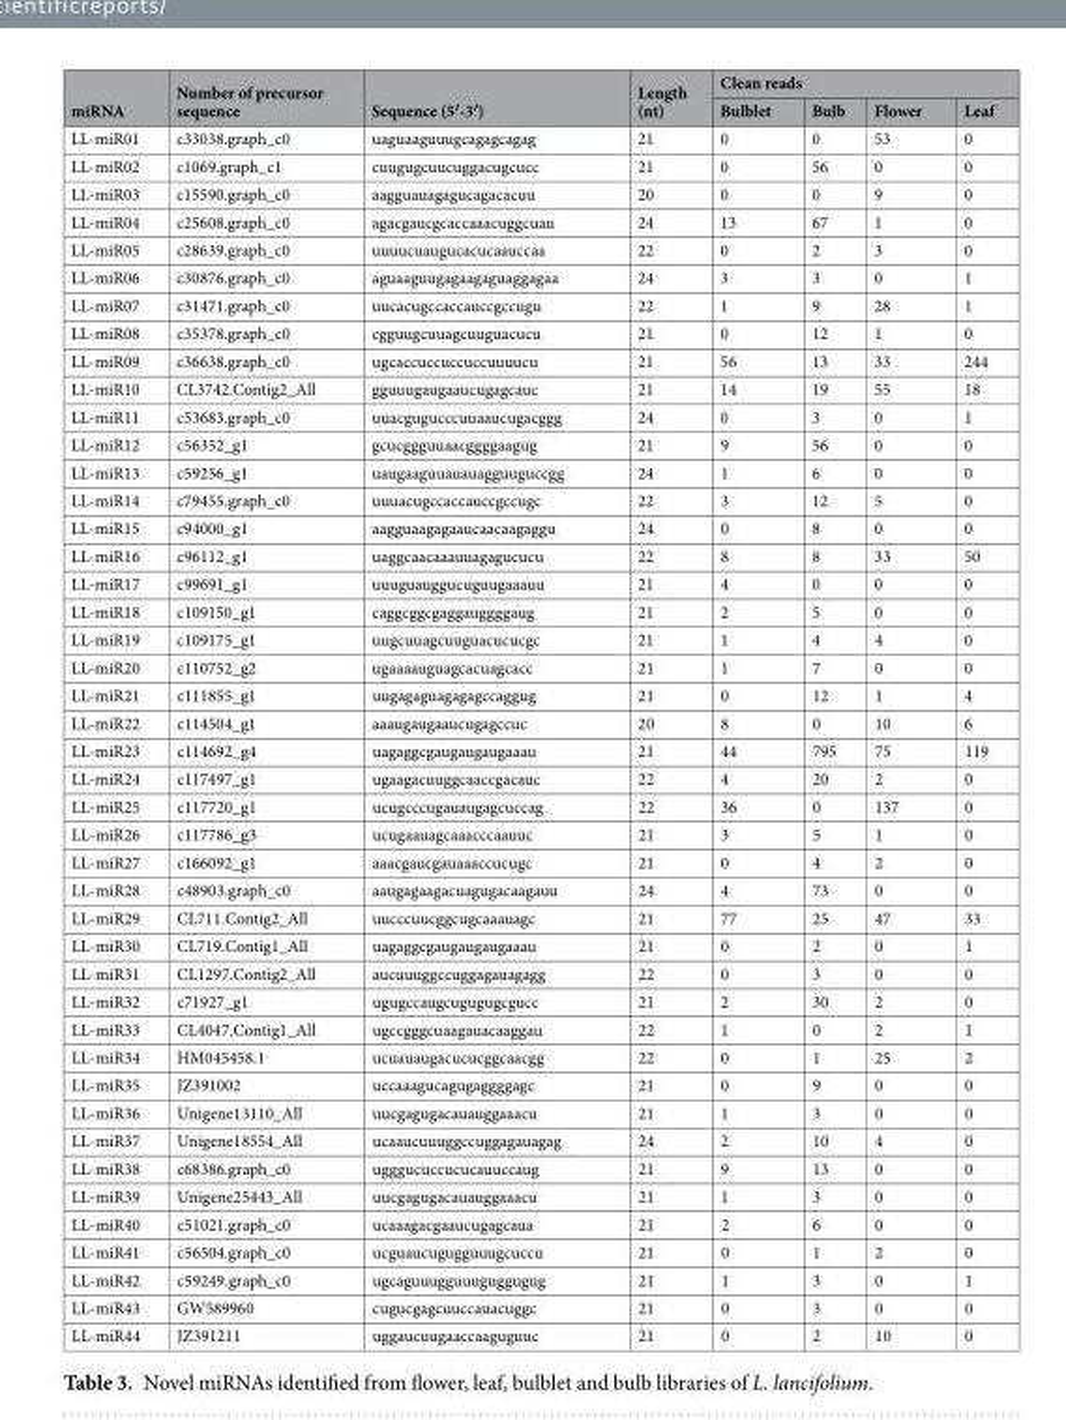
<table><thead><tr><td rowspan="2">miRNA</td><td rowspan="2">Number of precursor sequence</td><td rowspan="2">Sequence (5′-3′)</td><td rowspan="2">Length (nt)</td><td colspan="4">Clean reads</td></tr><tr><td>Bulblet</td><td>Bulb</td><td>Flower</td><td>Leaf</td></tr></thead><tbody><tr><td>LL-miR01</td><td>c33038.graph_c0</td><td>uaguaaguuugcagagcagag</td><td>21</td><td>0</td><td>0</td><td>53</td><td>0</td></tr><tr><td>LL-miR02</td><td>c1069.graph_c1</td><td>cuugugcuucuggacugcucc</td><td>21</td><td>0</td><td>56</td><td>0</td><td>0</td></tr><tr><td>LL-miR03</td><td>c15590.graph_c0</td><td>aagguauagagucagacacuu</td><td>20</td><td>0</td><td>0</td><td>9</td><td>0</td></tr><tr><td>LL-miR04</td><td>c25608.graph_c0</td><td>agacgaucgcaccaaacuggcuau</td><td>24</td><td>13</td><td>67</td><td>1</td><td>0</td></tr><tr><td>LL-miR05</td><td>c28639.graph_c0</td><td>uuuucuaugucacucaauccaa</td><td>22</td><td>0</td><td>2</td><td>3</td><td>0</td></tr><tr><td>LL-miR06</td><td>c30876.graph_c0</td><td>aguaaguugagaagaguaggagaa</td><td>24</td><td>3</td><td>3</td><td>0</td><td>1</td></tr><tr><td>LL-miR07</td><td>c31471.graph_c0</td><td>uucacugccaccauccgccugu</td><td>22</td><td>1</td><td>9</td><td>28</td><td>1</td></tr><tr><td>LL-miR08</td><td>c35378.graph_c0</td><td>cgguugcuuagcuuguacucu</td><td>21</td><td>0</td><td>12</td><td>1</td><td>0</td></tr><tr><td>LL-miR09</td><td>c36638.graph_c0</td><td>ugcaccuccuccuccuuuucu</td><td>21</td><td>56</td><td>13</td><td>33</td><td>244</td></tr><tr><td>LL-miR10</td><td>CL3742.Contig2_All</td><td>gguuugaugaaucugagcauc</td><td>21</td><td>14</td><td>19</td><td>55</td><td>18</td></tr><tr><td>LL-miR11</td><td>c53683.graph_c0</td><td>uuacgugucccuuaaucugacggg</td><td>24</td><td>0</td><td>3</td><td>0</td><td>1</td></tr><tr><td>LL-miR12</td><td>c56352_g1</td><td>gcucggguuaacggggaagug</td><td>21</td><td>9</td><td>56</td><td>0</td><td>0</td></tr><tr><td>LL-miR13</td><td>c59256_g1</td><td>uaugaaguuauauagguuguccgg</td><td>24</td><td>1</td><td>6</td><td>0</td><td>0</td></tr><tr><td>LL-miR14</td><td>c79455.graph_c0</td><td>uuuacugccaccauccgccugc</td><td>22</td><td>3</td><td>12</td><td>5</td><td>0</td></tr><tr><td>LL-miR15</td><td>c94000_g1</td><td>aagguaagagaaucaacaagaggu</td><td>24</td><td>0</td><td>8</td><td>0</td><td>0</td></tr><tr><td>LL-miR16</td><td>c96112_g1</td><td>uaggcaacaaauuagagucucu</td><td>22</td><td>8</td><td>8</td><td>33</td><td>50</td></tr><tr><td>LL-miR17</td><td>c99691_g1</td><td>uuuguauggucuguugaaauu</td><td>21</td><td>4</td><td>0</td><td>0</td><td>0</td></tr><tr><td>LL-miR18</td><td>c109150_g1</td><td>caggcggcgaggauggggaug</td><td>21</td><td>2</td><td>5</td><td>0</td><td>0</td></tr><tr><td>LL-miR19</td><td>c109175_g1</td><td>uugcuuagcuuguacucucgc</td><td>21</td><td>1</td><td>4</td><td>4</td><td>0</td></tr><tr><td>LL-miR20</td><td>c110752_g2</td><td>ugaaaauguagcacuagcacc</td><td>21</td><td>1</td><td>7</td><td>0</td><td>0</td></tr><tr><td>LL-miR21</td><td>c111855_g1</td><td>uugagaguagagagccaggug</td><td>21</td><td>0</td><td>12</td><td>1</td><td>4</td></tr><tr><td>LL-miR22</td><td>c114504_g1</td><td>aaaugaugaaucugagccuc</td><td>20</td><td>8</td><td>0</td><td>10</td><td>6</td></tr><tr><td>LL-miR23</td><td>c114692_g4</td><td>uagaggcgaugaugaugaaau</td><td>21</td><td>44</td><td>795</td><td>75</td><td>119</td></tr><tr><td>LL-miR24</td><td>c117497_g1</td><td>ugaagacuuggcaaccgacauc</td><td>22</td><td>4</td><td>20</td><td>2</td><td>0</td></tr><tr><td>LL-miR25</td><td>c117720_g1</td><td>ucugcccugauaugagcuccag</td><td>22</td><td>36</td><td>0</td><td>137</td><td>0</td></tr><tr><td>LL-miR26</td><td>c117786_g3</td><td>ucugaauagcaaacccaauuc</td><td>21</td><td>3</td><td>5</td><td>1</td><td>0</td></tr><tr><td>LL-miR27</td><td>c166092_g1</td><td>aaacgaucgauaaaccucugc</td><td>21</td><td>0</td><td>4</td><td>2</td><td>0</td></tr><tr><td>LL-miR28</td><td>c48903.graph_c0</td><td>aaugagaagacuagugacaagauu</td><td>24</td><td>4</td><td>73</td><td>0</td><td>0</td></tr><tr><td>LL-miR29</td><td>CL711.Contig2_All</td><td>uucccuucggcugcaaauagc</td><td>21</td><td>77</td><td>25</td><td>47</td><td>33</td></tr><tr><td>LL-miR30</td><td>CL719.Contig1_All</td><td>uagaggcgaugaugaugaaau</td><td>21</td><td>0</td><td>2</td><td>0</td><td>1</td></tr><tr><td>LL-miR31</td><td>CL1297.Contig2_All</td><td>aucuuuggccuggagauagagg</td><td>22</td><td>0</td><td>3</td><td>0</td><td>0</td></tr><tr><td>LL-miR32</td><td>c71927_g1</td><td>ugugccaugcugugugcgucc</td><td>21</td><td>2</td><td>30</td><td>2</td><td>0</td></tr><tr><td>LL-miR33</td><td>CL4047.Contig1_All</td><td>ugccgggcuaagauacaaggau</td><td>22</td><td>1</td><td>0</td><td>2</td><td>1</td></tr><tr><td>LL-miR34</td><td>HM045458.1</td><td>ucuauaugacucucggcaacgg</td><td>22</td><td>0</td><td>1</td><td>25</td><td>2</td></tr><tr><td>LL-miR35</td><td>JZ391002</td><td>uccaaagucagugaggggagc</td><td>21</td><td>0</td><td>9</td><td>0</td><td>0</td></tr><tr><td>LL-miR36</td><td>Unigene13110_All</td><td>uucgagugacauauggaaacu</td><td>21</td><td>1</td><td>3</td><td>0</td><td>0</td></tr><tr><td>LL-miR37</td><td>Unigene18554_All</td><td>ucaaucuuuggccuggagauagag</td><td>24</td><td>2</td><td>10</td><td>4</td><td>0</td></tr><tr><td>LL-miR38</td><td>c68386.graph_c0</td><td>ugggucuccucucauuccaug</td><td>21</td><td>9</td><td>13</td><td>0</td><td>0</td></tr><tr><td>LL-miR39</td><td>Unigene25443_All</td><td>uucgagugacauauggaaacu</td><td>21</td><td>1</td><td>3</td><td>0</td><td>0</td></tr><tr><td>LL-miR40</td><td>c51021.graph_c0</td><td>ucaaagacgaaucugagcaua</td><td>21</td><td>2</td><td>6</td><td>0</td><td>0</td></tr><tr><td>LL-miR41</td><td>c56504.graph_c0</td><td>ucguaucugugguuugcuccu</td><td>21</td><td>0</td><td>1</td><td>2</td><td>0</td></tr><tr><td>LL-miR42</td><td>c59249.graph_c0</td><td>ugcaguuugguuuguggugug</td><td>21</td><td>1</td><td>3</td><td>0</td><td>1</td></tr><tr><td>LL-miR43</td><td>GW589960</td><td>cugucgagcuuccauacuggc</td><td>21</td><td>0</td><td>3</td><td>0</td><td>0</td></tr><tr><td>LL-miR44</td><td>JZ391211</td><td>uggaucuugaaccaaguguuc</td><td>21</td><td>0</td><td>2</td><td>10</td><td>0</td></tr></tbody></table>